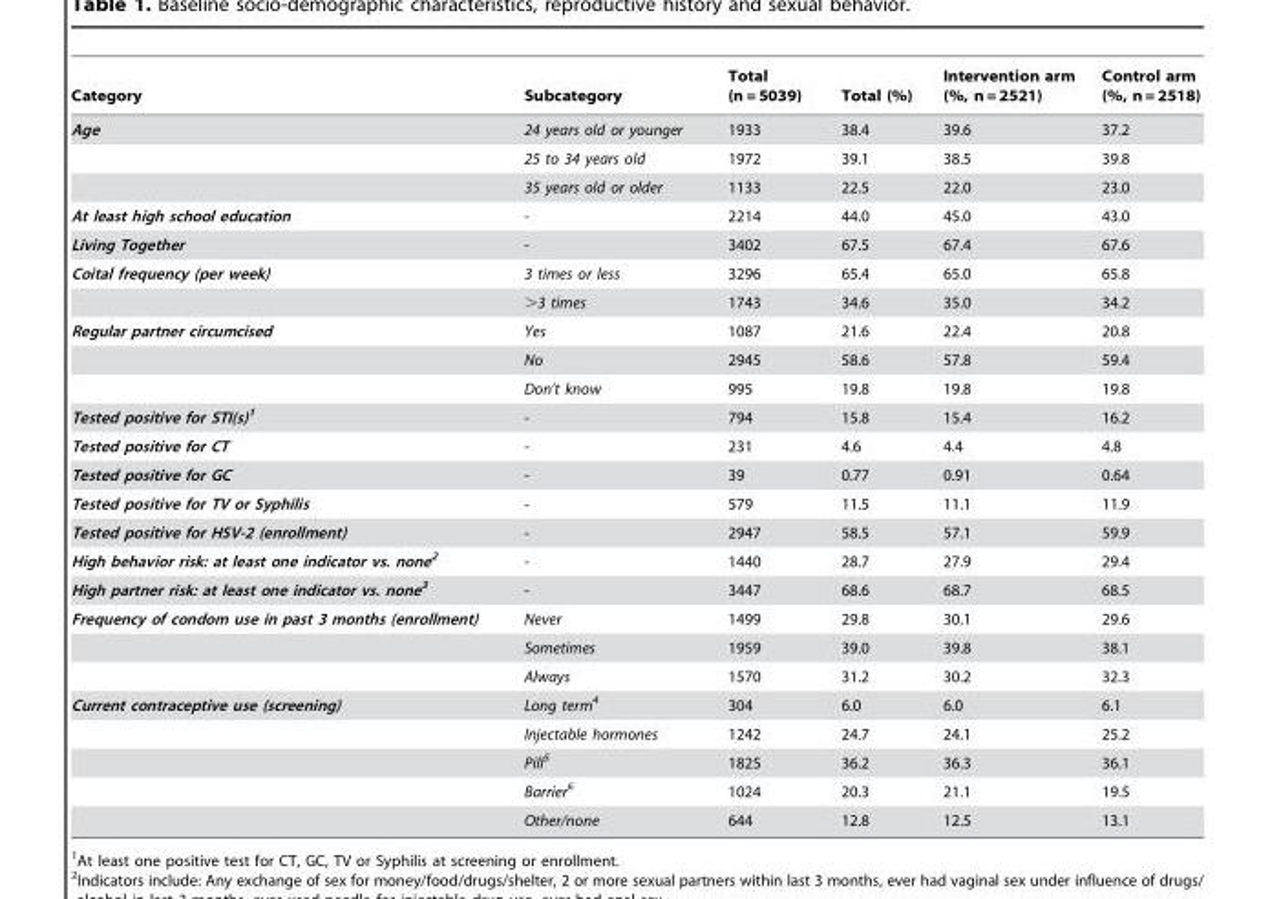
<table><thead><tr><td>Category</td><td>Subcategory</td><td>Total (n = 5039)</td><td>Total (%)</td><td>Intervention arm (%, n = 2521)</td><td>Control arm (%, n = 2518)</td></tr></thead><tbody><tr><td rowspan="3">Age</td><td>24 years old or younger</td><td>1933</td><td>38.4</td><td>39.6</td><td>37.2</td></tr><tr><td>25 to 34 years old</td><td>1972</td><td>39.1</td><td>38.5</td><td>39.8</td></tr><tr><td>35 years old or older</td><td>1133</td><td>22.5</td><td>22.0</td><td>23.0</td></tr><tr><td>At least high school education</td><td>-</td><td>2214</td><td>44.0</td><td>45.0</td><td>43.0</td></tr><tr><td>Living Together</td><td>-</td><td>3402</td><td>67.5</td><td>67.4</td><td>67.6</td></tr><tr><td rowspan="2">Coital frequency (per week)</td><td>3 times or less</td><td>3296</td><td>65.4</td><td>65.0</td><td>65.8</td></tr><tr><td>&gt;3 times</td><td>1743</td><td>34.6</td><td>35.0</td><td>34.2</td></tr><tr><td rowspan="3">Regular partner circumcised</td><td>Yes</td><td>1087</td><td>21.6</td><td>22.4</td><td>20.8</td></tr><tr><td>No</td><td>2945</td><td>58.6</td><td>57.8</td><td>59.4</td></tr><tr><td>Don’t know</td><td>995</td><td>19.8</td><td>19.8</td><td>19.8</td></tr><tr><td>Tested positive for STI(s)1</td><td>-</td><td>794</td><td>15.8</td><td>15.4</td><td>16.2</td></tr><tr><td>Tested positive for CT</td><td>-</td><td>231</td><td>4.6</td><td>4.4</td><td>4.8</td></tr><tr><td>Tested positive for GC</td><td>-</td><td>39</td><td>0.77</td><td>0.91</td><td>0.64</td></tr><tr><td>Tested positive for TV or Syphilis</td><td>-</td><td>579</td><td>11.5</td><td>11.1</td><td>11.9</td></tr><tr><td>Tested positive for HSV-2 (enrollment)</td><td>-</td><td>2947</td><td>58.5</td><td>57.1</td><td>59.9</td></tr><tr><td>High behavior risk: at least one indicator vs. none2</td><td>-</td><td>1440</td><td>28.7</td><td>27.9</td><td>29.4</td></tr><tr><td>High partner risk: at least one indicator vs. none3</td><td>-</td><td>3447</td><td>68.6</td><td>68.7</td><td>68.5</td></tr><tr><td rowspan="3">Frequency of condom use in past 3 months (enrollment)</td><td>Never</td><td>1499</td><td>29.8</td><td>30.1</td><td>29.6</td></tr><tr><td>Sometimes</td><td>1959</td><td>39.0</td><td>39.8</td><td>38.1</td></tr><tr><td>Always</td><td>1570</td><td>31.2</td><td>30.2</td><td>32.3</td></tr><tr><td rowspan="5">Current contraceptive use (screening)</td><td>Long term4</td><td>304</td><td>6.0</td><td>6.0</td><td>6.1</td></tr><tr><td>Injectable hormones</td><td>1242</td><td>24.7</td><td>24.1</td><td>25.2</td></tr><tr><td>Pill5</td><td>1825</td><td>36.2</td><td>36.3</td><td>36.1</td></tr><tr><td>Barrier6</td><td>1024</td><td>20.3</td><td>21.1</td><td>19.5</td></tr><tr><td>Other/none</td><td>644</td><td>12.8</td><td>12.5</td><td>13.1</td></tr></tbody></table>